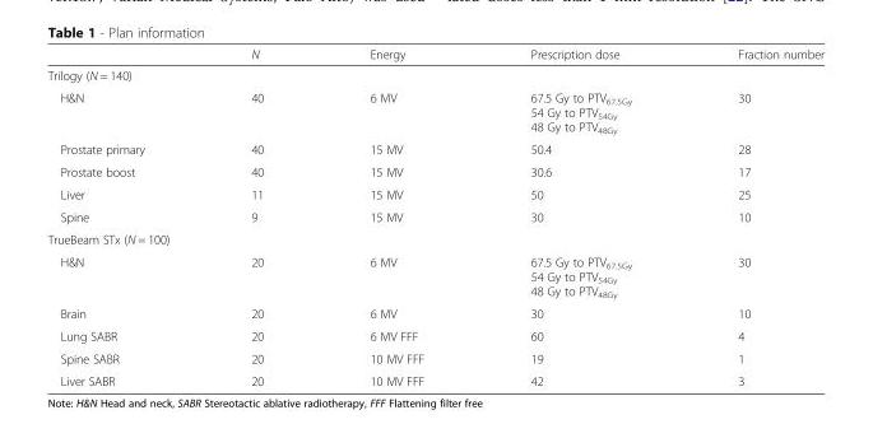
<table><thead><tr><td></td><td>N</td><td>Energy</td><td>Prescription dose</td><td>Fraction number</td></tr></thead><tbody><tr><td colspan="5">Trilogy (N = 140)</td></tr><tr><td>H&amp;N</td><td>40</td><td>6 MV</td><td>67.5 Gy to PTV<sub>67.5Gy</sub> 54 Gy to PTV<sub>54Gy</sub> 48 Gy to PTV<sub>48Gy</sub></td><td>30</td></tr><tr><td>Prostate primary</td><td>40</td><td>15 MV</td><td>50.4</td><td>28</td></tr><tr><td>Prostate boost</td><td>40</td><td>15 MV</td><td>30.6</td><td>17</td></tr><tr><td>Liver</td><td>11</td><td>15 MV</td><td>50</td><td>25</td></tr><tr><td>Spine</td><td>9</td><td>15 MV</td><td>30</td><td>10</td></tr><tr><td colspan="5">TrueBeam STx (N = 100)</td></tr><tr><td>H&amp;N</td><td>20</td><td>6 MV</td><td>67.5 Gy to PTV<sub>67.5Gy</sub> 54 Gy to PTV<sub>54Gy</sub> 48 Gy to PTV<sub>48Gy</sub></td><td>30</td></tr><tr><td>Brain</td><td>20</td><td>6 MV</td><td>30</td><td>10</td></tr><tr><td>Lung SABR</td><td>20</td><td>6 MV FFF</td><td>60</td><td>4</td></tr><tr><td>Spine SABR</td><td>20</td><td>10 MV FFF</td><td>19</td><td>1</td></tr><tr><td>Liver SABR</td><td>20</td><td>10 MV FFF</td><td>42</td><td>3</td></tr></tbody></table>